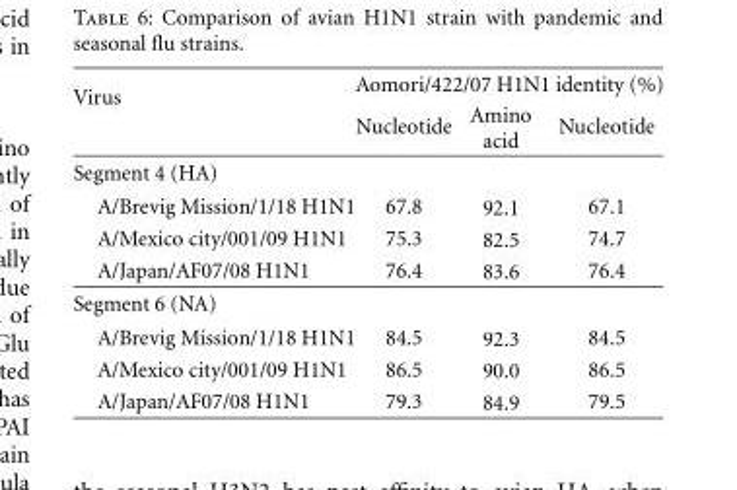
<table><thead><tr><td rowspan="2">Virus</td><td colspan="3">Aomori/422/07 H1N1 identity (%)</td></tr><tr><td>Nucleotide</td><td>Amino acid</td><td>Nucleotide</td></tr></thead><tbody><tr><td colspan="4">Segment 4 (HA)</td></tr><tr><td>A/Brevig Mission/1/18 H1N1</td><td>67.8</td><td>92.1</td><td>67.1</td></tr><tr><td>A/Mexico city/001/09 H1N1</td><td>75.3</td><td>82.5</td><td>74.7</td></tr><tr><td>A/Japan/AF07/08 H1N1</td><td>76.4</td><td>83.6</td><td>76.4</td></tr><tr><td colspan="4">Segment 6 (NA)</td></tr><tr><td>A/Brevig Mission/1/18 H1N1</td><td>84.5</td><td>92.3</td><td>84.5</td></tr><tr><td>A/Mexico city/001/09 H1N1</td><td>86.5</td><td>90.0</td><td>86.5</td></tr><tr><td>A/Japan/AF07/08 H1N1</td><td>79.3</td><td>84.9</td><td>79.5</td></tr></tbody></table>